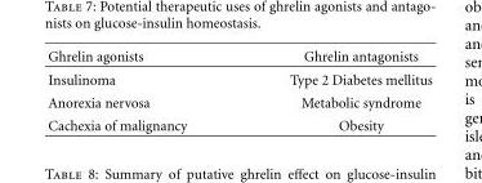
<table><thead><tr><td>Ghrelin agonists</td><td>Ghrelin antagonists</td></tr></thead><tbody><tr><td>Insulinoma</td><td>Type 2 Diabetes mellitus</td></tr><tr><td>Anorexia nervosa</td><td>Metabolic syndrome</td></tr><tr><td>Cachexia of malignancy</td><td>Obesity</td></tr></tbody></table>